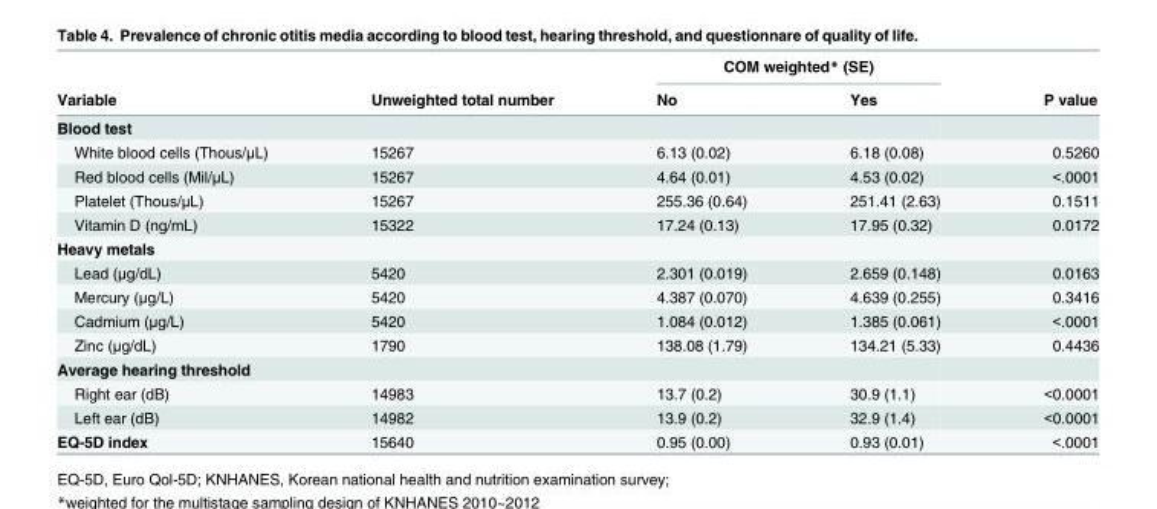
<table><thead><tr><td rowspan="2">Variable</td><td rowspan="2">Unweighted total number</td><td colspan="2">COM weighted* (SE)</td><td rowspan="2">P value</td></tr><tr><td>No</td><td>Yes</td></tr></thead><tbody><tr><td colspan="5">Blood test</td></tr><tr><td>White blood cells (Thous/μL)</td><td>15267</td><td>6.13 (0.02)</td><td>6.18 (0.08)</td><td>0.5260</td></tr><tr><td>Red blood cells (Mil/μL)</td><td>15267</td><td>4.64 (0.01)</td><td>4.53 (0.02)</td><td>&lt;.0001</td></tr><tr><td>Platelet (Thous/μL)</td><td>15267</td><td>255.36 (0.64)</td><td>251.41 (2.63)</td><td>0.1511</td></tr><tr><td>Vitamin D (ng/mL)</td><td>15322</td><td>17.24 (0.13)</td><td>17.95 (0.32)</td><td>0.0172</td></tr><tr><td colspan="5">Heavy metals</td></tr><tr><td>Lead (μg/dL)</td><td>5420</td><td>2.301 (0.019)</td><td>2.659 (0.148)</td><td>0.0163</td></tr><tr><td>Mercury (μg/L)</td><td>5420</td><td>4.387 (0.070)</td><td>4.639 (0.255)</td><td>0.3416</td></tr><tr><td>Cadmium (μg/L)</td><td>5420</td><td>1.084 (0.012)</td><td>1.385 (0.061)</td><td>&lt;.0001</td></tr><tr><td>Zinc (μg/dL)</td><td>1790</td><td>138.08 (1.79)</td><td>134.21 (5.33)</td><td>0.4436</td></tr><tr><td colspan="5">Average hearing threshold</td></tr><tr><td>Right ear (dB)</td><td>14983</td><td>13.7 (0.2)</td><td>30.9 (1.1)</td><td>&lt;0.0001</td></tr><tr><td>Left ear (dB)</td><td>14982</td><td>13.9 (0.2)</td><td>32.9 (1.4)</td><td>&lt;0.0001</td></tr><tr><td>EQ-5D index</td><td>15640</td><td>0.95 (0.00)</td><td>0.93 (0.01)</td><td>&lt;.0001</td></tr></tbody></table>